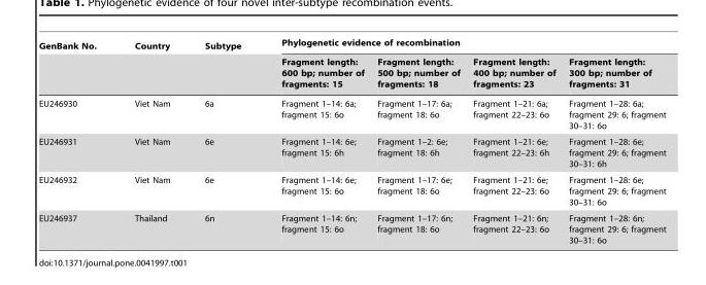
<table><thead><tr><td rowspan="2">GenBank No.</td><td rowspan="2">Country</td><td rowspan="2">Subtype</td><td colspan="4">Phylogenetic evidence of recombination</td></tr><tr><td>Fragment length: 600 bp; number of fragments: 15</td><td>Fragment length: 500 bp; number of fragments: 18</td><td>Fragment length: 400 bp; number of fragments: 23</td><td>Fragment length: 300 bp; number of fragments: 31</td></tr></thead><tbody><tr><td>EU246930</td><td>Viet Nam</td><td>6a</td><td>Fragment 1–14: 6a; fragment 15: 6o</td><td>Fragment 1–17: 6a; fragment 18: 6o</td><td>Fragment 1–21: 6a; fragment 22–23: 6o</td><td>Fragment 1–28: 6a; fragment 29: 6; fragment 30–31: 6o</td></tr><tr><td>EU246931</td><td>Viet Nam</td><td>6e</td><td>Fragment 1–14: 6e; fragment 15: 6h</td><td>Fragment 1–2: 6e; fragment 18: 6h</td><td>Fragment 1–21: 6e; fragment 22–23: 6h</td><td>Fragment 1–28: 6e; fragment 29: 6; fragment 30–31: 6h</td></tr><tr><td>EU246932</td><td>Viet Nam</td><td>6e</td><td>Fragment 1–14: 6e; fragment 15: 6o</td><td>Fragment 1–17: 6e; fragment 18: 6o</td><td>Fragment 1–21: 6e; fragment 22–23: 6o</td><td>Fragment 1–28: 6e; fragment 29: 6; fragment 30–31: 6o</td></tr><tr><td>EU246937</td><td>Thailand</td><td>6n</td><td>Fragment 1–14: 6n; fragment 15: 6o</td><td>Fragment 1–17: 6n; fragment 18: 6o</td><td>Fragment 1–21: 6n; fragment 22–23: 6o</td><td>Fragment 1–28: 6n; fragment 29: 6; fragment 30–31: 6o</td></tr></tbody></table>